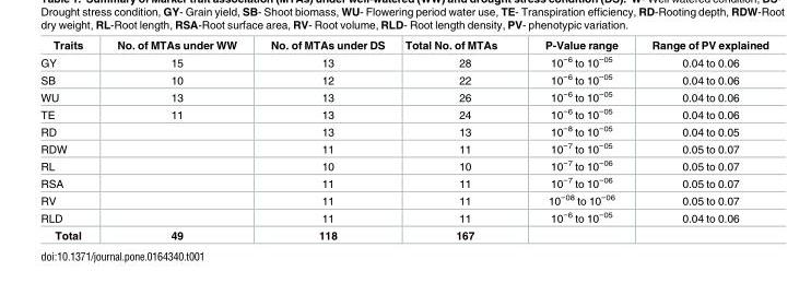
<table><thead><tr><td>Traits</td><td>No. of MTAs under WW</td><td>No. of MTAs under DS</td><td>Total No. of MTAs</td><td>P-Value range</td><td>Range of PV explained</td></tr></thead><tbody><tr><td>GY</td><td>15</td><td>13</td><td>28</td><td>10<sup>−6</sup> to 10<sup>−05</sup></td><td>0.04 to 0.06</td></tr><tr><td>SB</td><td>10</td><td>12</td><td>22</td><td>10<sup>−6</sup> to 10<sup>−05</sup></td><td>0.04 to 0.06</td></tr><tr><td>WU</td><td>13</td><td>13</td><td>26</td><td>10<sup>−6</sup> to 10<sup>−05</sup></td><td>0.04 to 0.06</td></tr><tr><td>TE</td><td>11</td><td>13</td><td>24</td><td>10<sup>−6</sup> to 10<sup>−05</sup></td><td>0.04 to 0.06</td></tr><tr><td>RD</td><td></td><td>13</td><td>13</td><td>10<sup>−8</sup> to 10<sup>−05</sup></td><td>0.04 to 0.05</td></tr><tr><td>RDW</td><td></td><td>11</td><td>11</td><td>10<sup>−7</sup> to 10<sup>−05</sup></td><td>0.05 to 0.07</td></tr><tr><td>RL</td><td></td><td>10</td><td>10</td><td>10<sup>−7</sup> to 10<sup>−06</sup></td><td>0.05 to 0.07</td></tr><tr><td>RSA</td><td></td><td>11</td><td>11</td><td>10<sup>−7</sup> to 10<sup>−06</sup></td><td>0.05 to 0.07</td></tr><tr><td>RV</td><td></td><td>11</td><td>11</td><td>10<sup>−08</sup> to 10<sup>−06</sup></td><td>0.05 to 0.07</td></tr><tr><td>RLD</td><td></td><td>11</td><td>11</td><td>10<sup>−6</sup> to 10<sup>−05</sup></td><td>0.04 to 0.06</td></tr><tr><td>Total</td><td>49</td><td>118</td><td>167</td><td></td><td></td></tr></tbody></table>